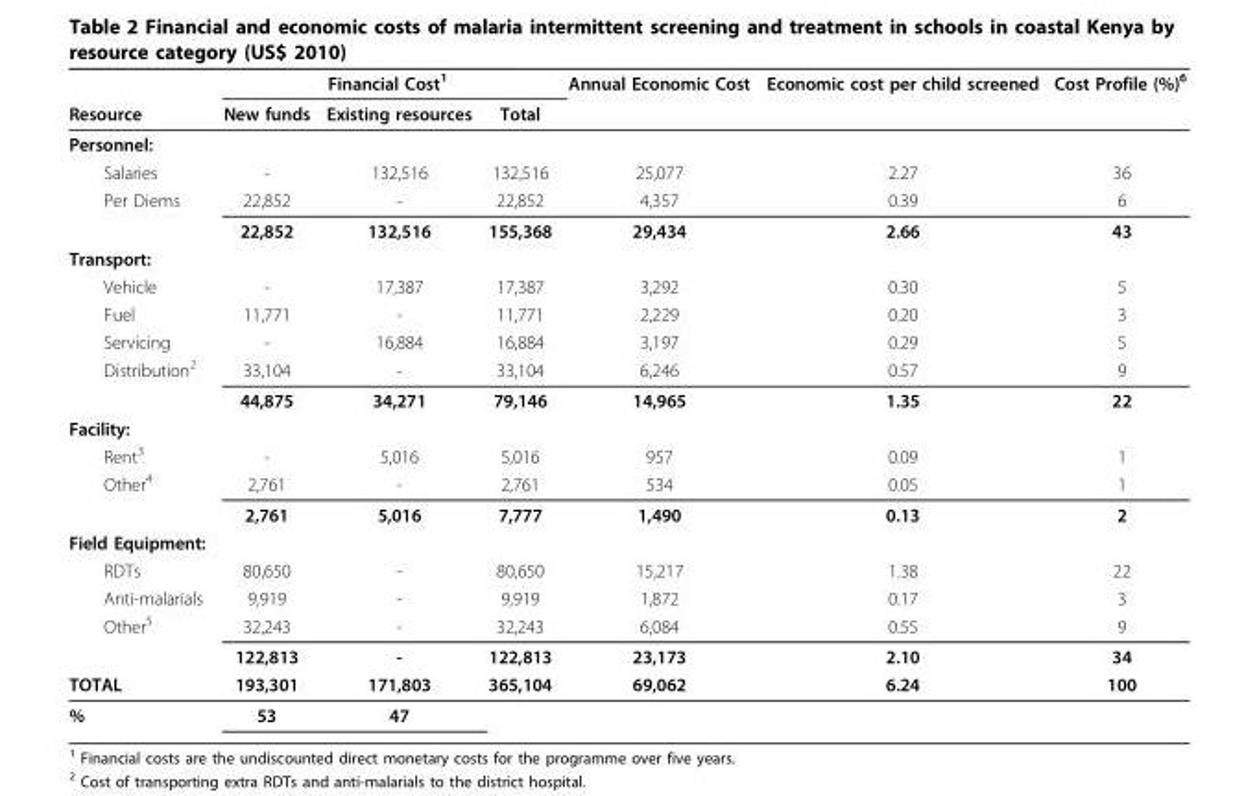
<table><thead><tr><td rowspan="2">Resource</td><td colspan="3">Financial Cost<sup>1</sup></td><td rowspan="2">Annual Economic Cost</td><td rowspan="2">Economic cost per child screened</td><td rowspan="2">Cost Profile (%)<sup>6</sup></td></tr><tr><td>New funds</td><td>Existing resources</td><td>Total</td></tr></thead><tbody><tr><td colspan="7">Personnel:</td></tr><tr><td>Salaries</td><td>-</td><td>132,516</td><td>132,516</td><td>25,077</td><td>2.27</td><td>36</td></tr><tr><td rowspan="2">Per Diems</td><td>22,852</td><td>-</td><td>22,852</td><td>4,357</td><td>0.39</td><td>6</td></tr><tr><td>22,852</td><td>132,516</td><td>155,368</td><td>29,434</td><td>2.66</td><td>43</td></tr><tr><td colspan="7">Transport:</td></tr><tr><td>Vehicle</td><td>-</td><td>17,387</td><td>17,387</td><td>3,292</td><td>0.30</td><td>5</td></tr><tr><td>Fuel</td><td>11,771</td><td>-</td><td>11,771</td><td>2,229</td><td>0.20</td><td>3</td></tr><tr><td>Servicing</td><td>-</td><td>16,884</td><td>16,884</td><td>3,197</td><td>0.29</td><td>5</td></tr><tr><td rowspan="2">Distribution<sup>2</sup></td><td>33,104</td><td>-</td><td>33,104</td><td>6,246</td><td>0.57</td><td>9</td></tr><tr><td>44,875</td><td>34,271</td><td>79,146</td><td>14,965</td><td>1.35</td><td>22</td></tr><tr><td colspan="7">Facility:</td></tr><tr><td>Rent<sup>3</sup></td><td>-</td><td>5,016</td><td>5,016</td><td>957</td><td>0.09</td><td>1</td></tr><tr><td rowspan="2">Other<sup>4</sup></td><td>2,761</td><td>-</td><td>2,761</td><td>534</td><td>0.05</td><td>1</td></tr><tr><td>2,761</td><td>5,016</td><td>7,777</td><td>1,490</td><td>0.13</td><td>2</td></tr><tr><td colspan="7">Field Equipment:</td></tr><tr><td>RDTs</td><td>80,650</td><td>-</td><td>80,650</td><td>15,217</td><td>1.38</td><td>22</td></tr><tr><td>Anti-malarials</td><td>9,919</td><td>-</td><td>9,919</td><td>1,872</td><td>0.17</td><td>3</td></tr><tr><td rowspan="2">Other<sup>5</sup></td><td>32,243</td><td>-</td><td>32,243</td><td>6,084</td><td>0.55</td><td>9</td></tr><tr><td>122,813</td><td>-</td><td>122,813</td><td>23,173</td><td>2.10</td><td>34</td></tr><tr><td>TOTAL</td><td>193,301</td><td>171,803</td><td>365,104</td><td>69,062</td><td>6.24</td><td>100</td></tr><tr><td>%</td><td>53</td><td>47</td><td></td><td></td><td></td><td></td></tr></tbody></table>